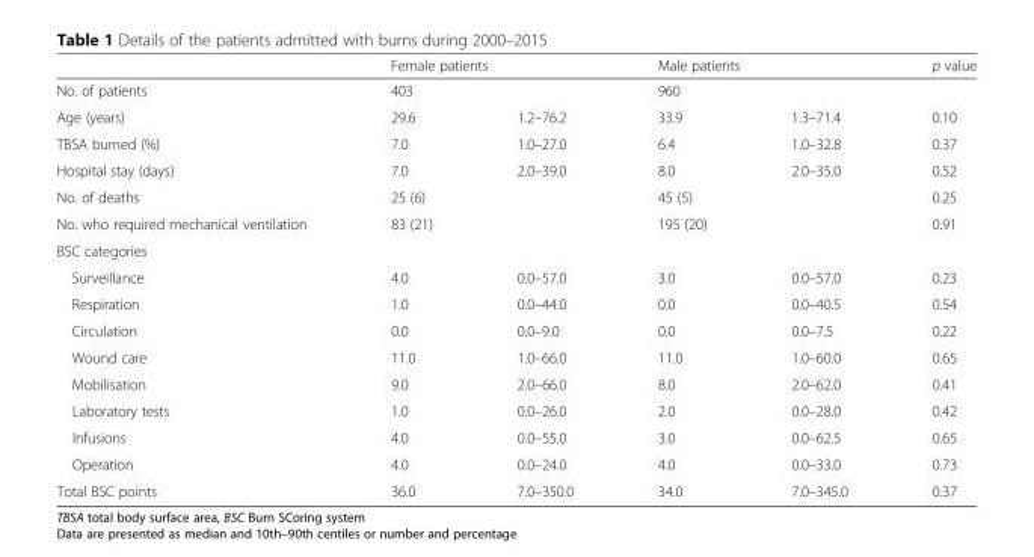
<table><thead><tr><td rowspan="2">No. of patients</td><td colspan="2">Female patients</td><td colspan="2">Male patients</td><td rowspan="2">p value</td></tr><tr><td>403</td><td></td><td>960</td><td></td></tr></thead><tbody><tr><td>Age (years)</td><td>29.6</td><td>1.2–76.2</td><td>33.9</td><td>1.3–71.4</td><td>0.10</td></tr><tr><td>TBSA burned (%)</td><td>7.0</td><td>1.0–27.0</td><td>6.4</td><td>1.0–32.8</td><td>0.37</td></tr><tr><td>Hospital stay (days)</td><td>7.0</td><td>2.0–39.0</td><td>8.0</td><td>2.0–35.0</td><td>0.52</td></tr><tr><td>No. of deaths</td><td>25 (6)</td><td></td><td>45 (5)</td><td></td><td>0.25</td></tr><tr><td>No. who required mechanical ventilation</td><td>83 (21)</td><td></td><td>195 (20)</td><td></td><td>0.91</td></tr><tr><td colspan="6">BSC categories</td></tr><tr><td>Surveillance</td><td>4.0</td><td>0.0–57.0</td><td>3.0</td><td>0.0–57.0</td><td>0.23</td></tr><tr><td>Respiration</td><td>1.0</td><td>0.0–44.0</td><td>0.0</td><td>0.0–40.5</td><td>0.54</td></tr><tr><td>Circulation</td><td>0.0</td><td>0.0–9.0</td><td>0.0</td><td>0.0–7.5</td><td>0.22</td></tr><tr><td>Wound care</td><td>11.0</td><td>1.0–66.0</td><td>11.0</td><td>1.0–60.0</td><td>0.65</td></tr><tr><td>Mobilisation</td><td>9.0</td><td>2.0–66.0</td><td>8.0</td><td>2.0–62.0</td><td>0.41</td></tr><tr><td>Laboratory tests</td><td>1.0</td><td>0.0–26.0</td><td>2.0</td><td>0.0–28.0</td><td>0.42</td></tr><tr><td>Infusions</td><td>4.0</td><td>0.0–55.0</td><td>3.0</td><td>0.0–62.5</td><td>0.65</td></tr><tr><td>Operation</td><td>4.0</td><td>0.0–24.0</td><td>4.0</td><td>0.0–33.0</td><td>0.73</td></tr><tr><td>Total BSC points</td><td>36.0</td><td>7.0–350.0</td><td>34.0</td><td>7.0–345.0</td><td>0.37</td></tr></tbody></table>